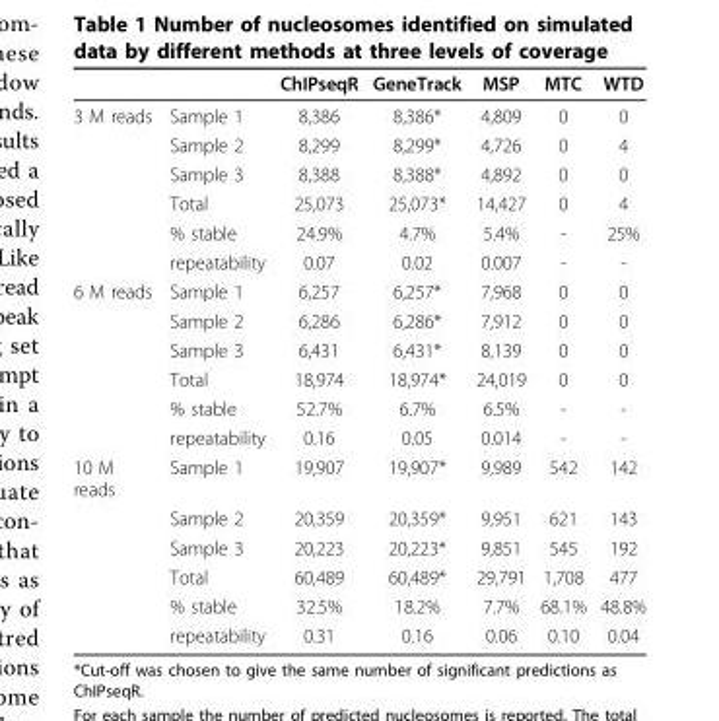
<table><thead><tr><td></td><td></td><td>ChIPseqR</td><td>GeneTrack</td><td>MSP</td><td>MTC</td><td>WTD</td></tr></thead><tbody><tr><td rowspan="6">3 M reads</td><td>Sample 1</td><td>8,386</td><td>8,386*</td><td>4,809</td><td>0</td><td>0</td></tr><tr><td>Sample 2</td><td>8,299</td><td>8,299*</td><td>4,726</td><td>0</td><td>4</td></tr><tr><td>Sample 3</td><td>8,388</td><td>8,388*</td><td>4,892</td><td>0</td><td>0</td></tr><tr><td>Total</td><td>25,073</td><td>25,073*</td><td>14,427</td><td>0</td><td>4</td></tr><tr><td>% stable</td><td>24.9%</td><td>4.7%</td><td>5.4%</td><td>-</td><td>25%</td></tr><tr><td>repeatability</td><td>0.07</td><td>0.02</td><td>0.007</td><td>-</td><td>-</td></tr><tr><td rowspan="6">6 M reads</td><td>Sample 1</td><td>6,257</td><td>6,257*</td><td>7,968</td><td>0</td><td>0</td></tr><tr><td>Sample 2</td><td>6,286</td><td>6,286*</td><td>7,912</td><td>0</td><td>0</td></tr><tr><td>Sample 3</td><td>6,431</td><td>6,431*</td><td>8,139</td><td>0</td><td>0</td></tr><tr><td>Total</td><td>18,974</td><td>18,974*</td><td>24,019</td><td>0</td><td>0</td></tr><tr><td>% stable</td><td>52.7%</td><td>6.7%</td><td>6.5%</td><td>-</td><td>-</td></tr><tr><td>repeatability</td><td>0.16</td><td>0.05</td><td>0.014</td><td>-</td><td>-</td></tr><tr><td rowspan="6">10 M reads</td><td>Sample 1</td><td>19,907</td><td>19,907*</td><td>9,989</td><td>542</td><td>142</td></tr><tr><td>Sample 2</td><td>20,359</td><td>20,359*</td><td>9,951</td><td>621</td><td>143</td></tr><tr><td>Sample 3</td><td>20,223</td><td>20,223*</td><td>9,851</td><td>545</td><td>192</td></tr><tr><td>Total</td><td>60,489</td><td>60,489*</td><td>29,791</td><td>1,708</td><td>477</td></tr><tr><td>% stable</td><td>32.5%</td><td>18.2%</td><td>7.7%</td><td>68.1%</td><td>48.8%</td></tr><tr><td>repeatability</td><td>0.31</td><td>0.16</td><td>0.06</td><td>0.10</td><td>0.04</td></tr></tbody></table>